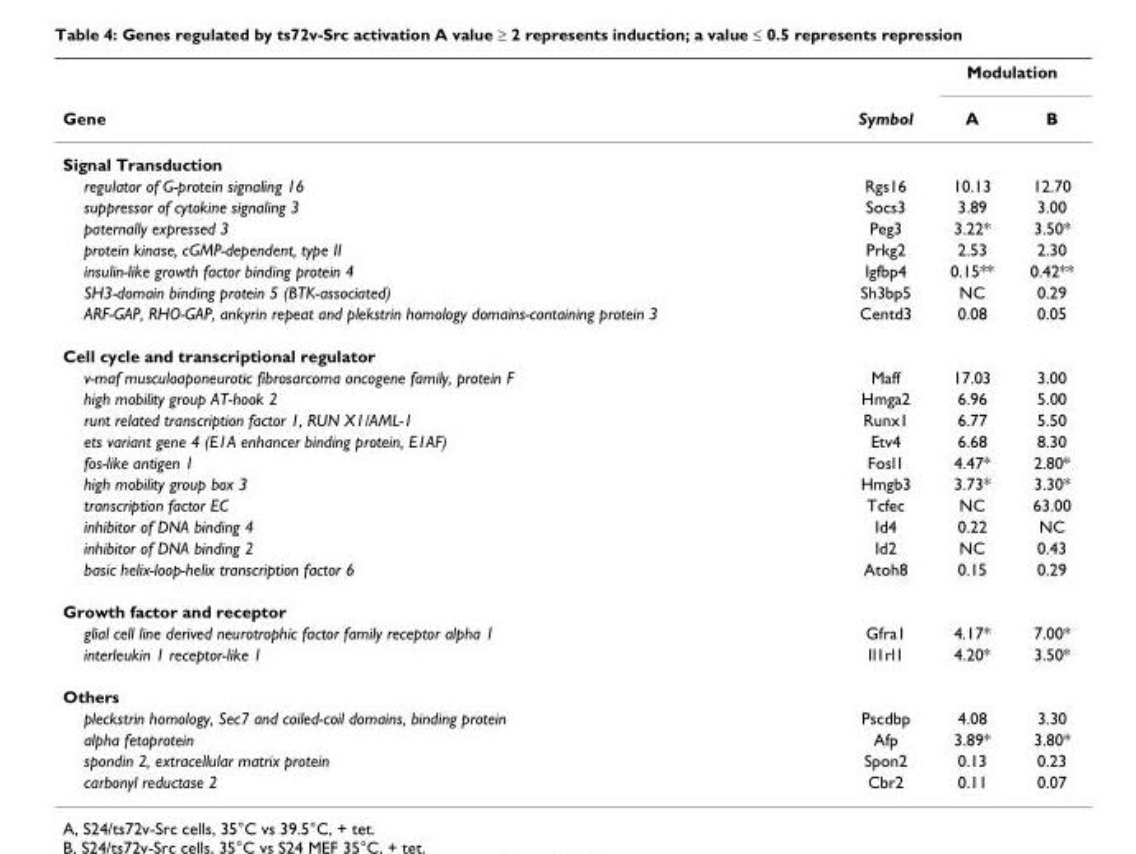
<table><thead><tr><td rowspan="2">Gene</td><td rowspan="2">Symbol</td><td colspan="2">Modulation</td></tr><tr><td>A</td><td>B</td></tr></thead><tbody><tr><td colspan="4">Signal Transduction</td></tr><tr><td>regulator of G-protein signaling 16</td><td>Rgs16</td><td>10.13</td><td>12.70</td></tr><tr><td>suppressor of cytokine signaling 3</td><td>Socs3</td><td>3.89</td><td>3.00</td></tr><tr><td>paternally expressed 3</td><td>Peg3</td><td>3.22*</td><td>3.50*</td></tr><tr><td>protein kinase, cGMP-dependent, type II</td><td>Prkg2</td><td>2.53</td><td>2.30</td></tr><tr><td>insulin-like growth factor binding protein 4</td><td>Igfbp4</td><td>0.15**</td><td>0.42**</td></tr><tr><td>SH3-domain binding protein 5 (BTK-associated)</td><td>Sh3bp5</td><td>NC</td><td>0.29</td></tr><tr><td>ARF-GAP, RHO-GAP, ankyrin repeat and plekstrin homology domains-containing protein 3</td><td>Centd3</td><td>0.08</td><td>0.05</td></tr><tr><td colspan="4">Cell cycle and transcriptional regulator</td></tr><tr><td>v-maf musculoaponeurotic fibrosarcoma oncogene family, protein F</td><td>Maff</td><td>17.03</td><td>3.00</td></tr><tr><td>high mobility group AT-hook 2</td><td>Hmga2</td><td>6.96</td><td>5.00</td></tr><tr><td>runt related transcription factor 1, RUN X1/AML-1</td><td>Runx1</td><td>6.77</td><td>5.50</td></tr><tr><td>ets variant gene 4 (E1A enhancer binding protein, E1AF)</td><td>Etv4</td><td>6.68</td><td>8.30</td></tr><tr><td>fos-like antigen 1</td><td>Fosl1</td><td>4.47*</td><td>2.80*</td></tr><tr><td>high mobility group box 3</td><td>Hmgb3</td><td>3.73*</td><td>3.30*</td></tr><tr><td>transcription factor EC</td><td>Tcfec</td><td>NC</td><td>63.00</td></tr><tr><td>inhibitor of DNA binding 4</td><td>Id4</td><td>0.22</td><td>NC</td></tr><tr><td>inhibitor of DNA binding 2</td><td>Id2</td><td>NC</td><td>0.43</td></tr><tr><td>basic helix-loop-helix transcription factor 6</td><td>Atoh8</td><td>0.15</td><td>0.29</td></tr><tr><td colspan="4">Growth factor and receptor</td></tr><tr><td>glial cell line derived neurotrophic factor family receptor alpha 1</td><td>Gfra1</td><td>4.17*</td><td>7.00*</td></tr><tr><td>interleukin 1 receptor-like 1</td><td>Il1rl1</td><td>4.20*</td><td>3.50*</td></tr><tr><td colspan="4">Others</td></tr><tr><td>pleckstrin homology, Sec7 and coiled-coil domains, binding protein</td><td>Pscdbp</td><td>4.08</td><td>3.30</td></tr><tr><td>alpha fetoprotein</td><td>Afp</td><td>3.89*</td><td>3.80*</td></tr><tr><td>spondin 2, extracellular matrix protein</td><td>Spon2</td><td>0.13</td><td>0.23</td></tr><tr><td>carbonyl reductase 2</td><td>Cbr2</td><td>0.11</td><td>0.07</td></tr></tbody></table>